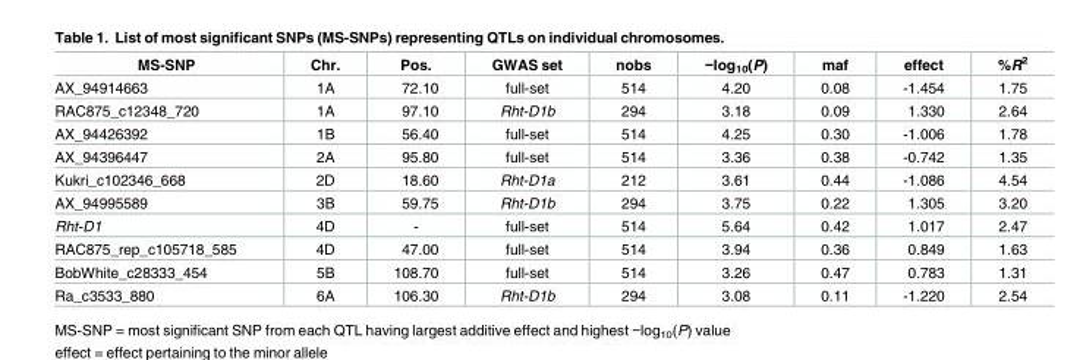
<table><thead><tr><td>MS-SNP</td><td>Chr.</td><td>Pos.</td><td>GWAS set</td><td>nobs</td><td>−log<sub>10</sub>(P)</td><td>maf</td><td>effect</td><td>%R<sup>2</sup></td></tr></thead><tbody><tr><td>AX_94914663</td><td>1A</td><td>72.10</td><td>full-set</td><td>514</td><td>4.20</td><td>0.08</td><td>-1.454</td><td>1.75</td></tr><tr><td>RAC875_c12348_720</td><td>1A</td><td>97.10</td><td>Rht-D1b</td><td>294</td><td>3.18</td><td>0.09</td><td>1.330</td><td>2.64</td></tr><tr><td>AX_94426392</td><td>1B</td><td>56.40</td><td>full-set</td><td>514</td><td>4.25</td><td>0.30</td><td>-1.006</td><td>1.78</td></tr><tr><td>AX_94396447</td><td>2A</td><td>95.80</td><td>full-set</td><td>514</td><td>3.36</td><td>0.38</td><td>-0.742</td><td>1.35</td></tr><tr><td>Kukri_c102346_668</td><td>2D</td><td>18.60</td><td>Rht-D1a</td><td>212</td><td>3.61</td><td>0.44</td><td>-1.086</td><td>4.54</td></tr><tr><td>AX_94995589</td><td>3B</td><td>59.75</td><td>Rht-D1b</td><td>294</td><td>3.75</td><td>0.22</td><td>1.305</td><td>3.20</td></tr><tr><td>Rht-D1</td><td>4D</td><td>-</td><td>full-set</td><td>514</td><td>5.64</td><td>0.42</td><td>1.017</td><td>2.47</td></tr><tr><td>RAC875_rep_c105718_585</td><td>4D</td><td>47.00</td><td>full-set</td><td>514</td><td>3.94</td><td>0.36</td><td>0.849</td><td>1.63</td></tr><tr><td>BobWhite_c28333_454</td><td>5B</td><td>108.70</td><td>full-set</td><td>514</td><td>3.26</td><td>0.47</td><td>0.783</td><td>1.31</td></tr><tr><td>Ra_c3533_880</td><td>6A</td><td>106.30</td><td>Rht-D1b</td><td>294</td><td>3.08</td><td>0.11</td><td>-1.220</td><td>2.54</td></tr></tbody></table>